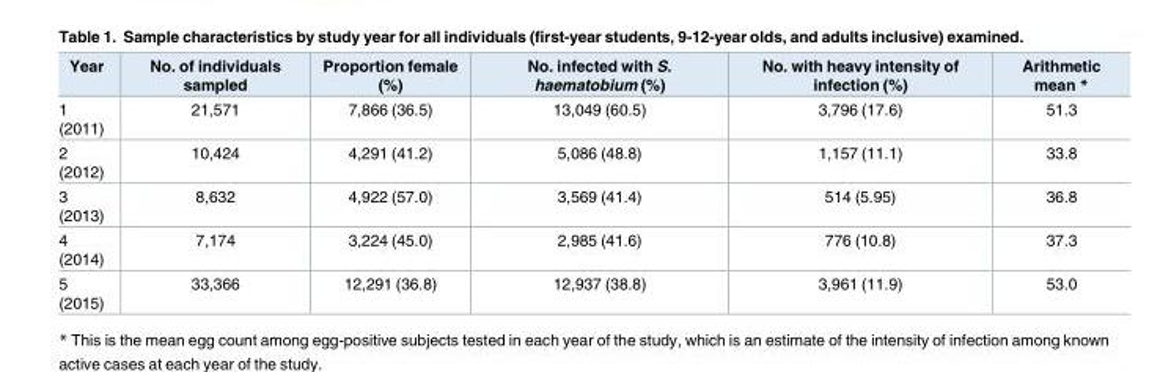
<table><thead><tr><td>Year</td><td>No. of individuals sampled</td><td>Proportion female (%)</td><td>No. infected with S. haematobium (%)</td><td>No. with heavy intensity of infection (%)</td><td>Arithmetic mean *</td></tr></thead><tbody><tr><td>1 (2011)</td><td>21,571</td><td>7,866 (36.5)</td><td>13,049 (60.5)</td><td>3,796 (17.6)</td><td>51.3</td></tr><tr><td>2 (2012)</td><td>10,424</td><td>4,291 (41.2)</td><td>5,086 (48.8)</td><td>1,157 (11.1)</td><td>33.8</td></tr><tr><td>3 (2013)</td><td>8,632</td><td>4,922 (57.0)</td><td>3,569 (41.4)</td><td>514 (5.95)</td><td>36.8</td></tr><tr><td>4 (2014)</td><td>7,174</td><td>3,224 (45.0)</td><td>2,985 (41.6)</td><td>776 (10.8)</td><td>37.3</td></tr><tr><td>5 (2015)</td><td>33,366</td><td>12,291 (36.8)</td><td>12,937 (38.8)</td><td>3,961 (11.9)</td><td>53.0</td></tr></tbody></table>